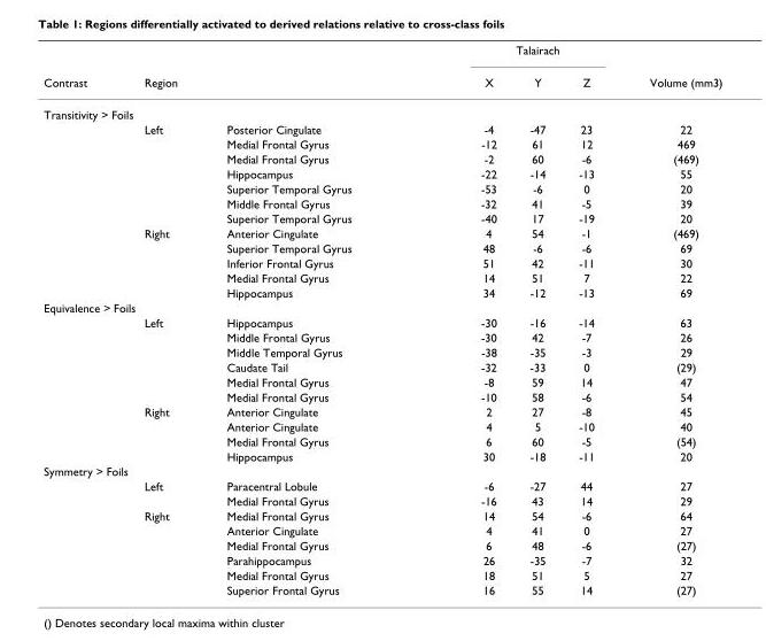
<table><thead><tr><td rowspan="2">Contrast</td><td rowspan="2">Region</td><td rowspan="2"></td><td colspan="3">Talairach</td><td rowspan="2">Volume (mm3)</td></tr><tr><td>X</td><td>Y</td><td>Z</td></tr></thead><tbody><tr><td colspan="7">Transitivity &gt; Foils</td></tr><tr><td></td><td>Left</td><td>Posterior Cingulate</td><td>-4</td><td>-47</td><td>23</td><td>22</td></tr><tr><td></td><td></td><td>Medial Frontal Gyrus</td><td>-12</td><td>61</td><td>12</td><td>469</td></tr><tr><td></td><td></td><td>Medial Frontal Gyrus</td><td>-2</td><td>60</td><td>-6</td><td>(469)</td></tr><tr><td></td><td></td><td>Hippocampus</td><td>-22</td><td>-14</td><td>-13</td><td>55</td></tr><tr><td></td><td></td><td>Superior Temporal Gyrus</td><td>-53</td><td>-6</td><td>0</td><td>20</td></tr><tr><td></td><td></td><td>Middle Frontal Gyrus</td><td>-32</td><td>41</td><td>-5</td><td>39</td></tr><tr><td></td><td></td><td>Superior Temporal Gyrus</td><td>-40</td><td>17</td><td>-19</td><td>20</td></tr><tr><td></td><td>Right</td><td>Anterior Cingulate</td><td>4</td><td>54</td><td>-1</td><td>(469)</td></tr><tr><td></td><td></td><td>Superior Temporal Gyrus</td><td>48</td><td>-6</td><td>-6</td><td>69</td></tr><tr><td></td><td></td><td>Inferior Frontal Gyrus</td><td>51</td><td>42</td><td>-11</td><td>30</td></tr><tr><td></td><td></td><td>Medial Frontal Gyrus</td><td>14</td><td>51</td><td>7</td><td>22</td></tr><tr><td></td><td></td><td>Hippocampus</td><td>34</td><td>-12</td><td>-13</td><td>69</td></tr><tr><td colspan="7">Equivalence &gt; Foils</td></tr><tr><td></td><td>Left</td><td>Hippocampus</td><td>-30</td><td>-16</td><td>-14</td><td>63</td></tr><tr><td></td><td></td><td>Middle Frontal Gyrus</td><td>-30</td><td>42</td><td>-7</td><td>26</td></tr><tr><td></td><td></td><td>Middle Temporal Gyrus</td><td>-38</td><td>-35</td><td>-3</td><td>29</td></tr><tr><td></td><td></td><td>Caudate Tail</td><td>-32</td><td>-33</td><td>0</td><td>(29)</td></tr><tr><td></td><td></td><td>Medial Frontal Gyrus</td><td>-8</td><td>59</td><td>14</td><td>47</td></tr><tr><td></td><td></td><td>Medial Frontal Gyrus</td><td>-10</td><td>58</td><td>-6</td><td>54</td></tr><tr><td></td><td>Right</td><td>Anterior Cingulate</td><td>2</td><td>27</td><td>-8</td><td>45</td></tr><tr><td></td><td></td><td>Anterior Cingulate</td><td>4</td><td>5</td><td>-10</td><td>40</td></tr><tr><td></td><td></td><td>Medial Frontal Gyrus</td><td>6</td><td>60</td><td>-5</td><td>(54)</td></tr><tr><td></td><td></td><td>Hippocampus</td><td>30</td><td>-18</td><td>-11</td><td>20</td></tr><tr><td colspan="7">Symmetry &gt; Foils</td></tr><tr><td></td><td>Left</td><td>Paracentral Lobule</td><td>-6</td><td>-27</td><td>44</td><td>27</td></tr><tr><td></td><td></td><td>Medial Frontal Gyrus</td><td>-16</td><td>43</td><td>14</td><td>29</td></tr><tr><td></td><td>Right</td><td>Medial Frontal Gyrus</td><td>14</td><td>54</td><td>-6</td><td>64</td></tr><tr><td></td><td></td><td>Anterior Cingulate</td><td>4</td><td>41</td><td>0</td><td>27</td></tr><tr><td></td><td></td><td>Medial Frontal Gyrus</td><td>6</td><td>48</td><td>-6</td><td>(27)</td></tr><tr><td></td><td></td><td>Parahippocampus</td><td>26</td><td>-35</td><td>-7</td><td>32</td></tr><tr><td></td><td></td><td>Medial Frontal Gyrus</td><td>18</td><td>51</td><td>5</td><td>27</td></tr><tr><td></td><td></td><td>Superior Frontal Gyrus</td><td>16</td><td>55</td><td>14</td><td>(27)</td></tr></tbody></table>